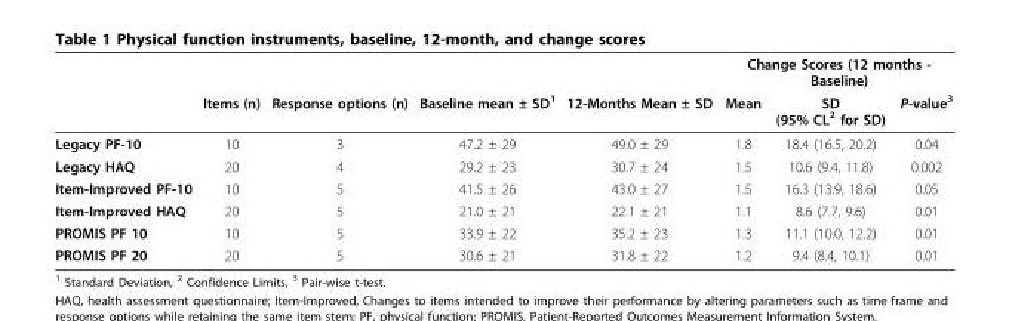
<table><thead><tr><td rowspan="2"></td><td rowspan="2">Items (n)</td><td rowspan="2">Response options (n)</td><td rowspan="2">Baseline mean ± SD<sup>1</sup></td><td rowspan="2">12-Months Mean ± SD</td><td colspan="3">Change Scores (12 months - Baseline)</td></tr><tr><td>Mean</td><td>SD (95% CL<sup>2</sup> for SD)</td><td>P-value<sup>3</sup></td></tr></thead><tbody><tr><td>Legacy PF-10</td><td>10</td><td>3</td><td>47.2 ± 29</td><td>49.0 ± 29</td><td>1.8</td><td>18.4 (16.5, 20.2)</td><td>0.04</td></tr><tr><td>Legacy HAQ</td><td>20</td><td>4</td><td>29.2 ± 23</td><td>30.7 ± 24</td><td>1.5</td><td>10.6 (9.4, 11.8)</td><td>0.002</td></tr><tr><td>Item-Improved PF-10</td><td>10</td><td>5</td><td>41.5 ± 26</td><td>43.0 ± 27</td><td>1.5</td><td>16.3 (13.9, 18.6)</td><td>0.05</td></tr><tr><td>Item-Improved HAQ</td><td>20</td><td>5</td><td>21.0 ± 21</td><td>22.1 ± 21</td><td>1.1</td><td>8.6 (7.7, 9.6)</td><td>0.01</td></tr><tr><td>PROMIS PF 10</td><td>10</td><td>5</td><td>33.9 ± 22</td><td>35.2 ± 23</td><td>1.3</td><td>11.1 (10.0, 12.2)</td><td>0.01</td></tr><tr><td>PROMIS PF 20</td><td>20</td><td>5</td><td>30.6 ± 21</td><td>31.8 ± 22</td><td>1.2</td><td>9.4 (8.4, 10.1)</td><td>0.01</td></tr></tbody></table>